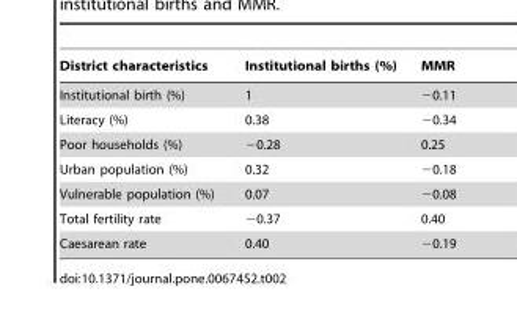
<table><thead><tr><td>District characteristics</td><td>Institutional births (%)</td><td>MMR</td></tr></thead><tbody><tr><td>Institutional birth (%)</td><td>1</td><td>−0.11</td></tr><tr><td>Literacy (%)</td><td>0.38</td><td>−0.34</td></tr><tr><td>Poor households (%)</td><td>−0.28</td><td>0.25</td></tr><tr><td>Urban population (%)</td><td>0.32</td><td>−0.18</td></tr><tr><td>Vulnerable population (%)</td><td>0.07</td><td>−0.08</td></tr><tr><td>Total fertility rate</td><td>−0.37</td><td>0.40</td></tr><tr><td>Caesarean rate</td><td>0.40</td><td>−0.19</td></tr></tbody></table>